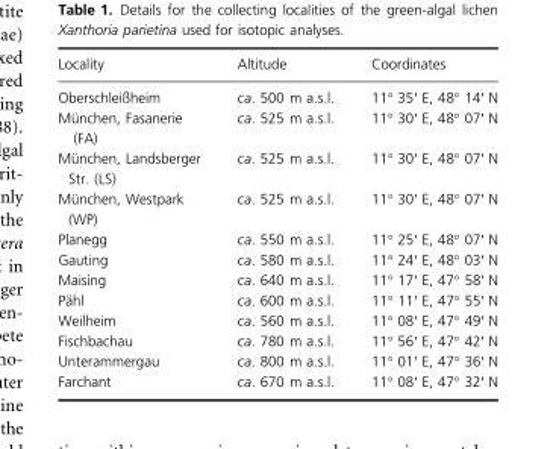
<table><thead><tr><td>Locality</td><td>Altitude</td><td>Coordinates</td></tr></thead><tbody><tr><td>Oberschleißheim</td><td>ca. 500 m a.s.l.</td><td>11° 35′ E, 48° 14′ N</td></tr><tr><td>Mu¨ nchen, Fasanerie (FA)</td><td>ca. 525 m a.s.l.</td><td>11° 30′ E, 48° 07′ N</td></tr><tr><td>Mu¨ nchen, Landsberger Str. (LS)</td><td>ca. 525 m a.s.l.</td><td>11° 30′ E, 48° 07′ N</td></tr><tr><td>Mu¨ nchen, Westpark (WP)</td><td>ca. 525 m a.s.l.</td><td>11° 30′ E, 48° 07′ N</td></tr><tr><td>Planegg</td><td>ca. 550 m a.s.l.</td><td>11° 25′ E, 48° 07′ N</td></tr><tr><td>Gauting</td><td>ca. 580 m a.s.l.</td><td>11° 24′ E, 48° 03′ N</td></tr><tr><td>Maising</td><td>ca. 640 m a.s.l.</td><td>11° 17′ E, 47° 58′ N</td></tr><tr><td>Pa¨hl</td><td>ca. 600 m a.s.l.</td><td>11° 11′ E, 47° 55′ N</td></tr><tr><td>Weilheim</td><td>ca. 560 m a.s.l.</td><td>11° 08′ E, 47° 49′ N</td></tr><tr><td>Fischbachau</td><td>ca. 780 m a.s.l.</td><td>11° 56′ E, 47° 42′ N</td></tr><tr><td>Unterammergau</td><td>ca. 800 m a.s.l.</td><td>11° 01′ E, 47° 36′ N</td></tr><tr><td>Farchant</td><td>ca. 670 m a.s.l.</td><td>11° 08′ E, 47° 32′ N</td></tr></tbody></table>